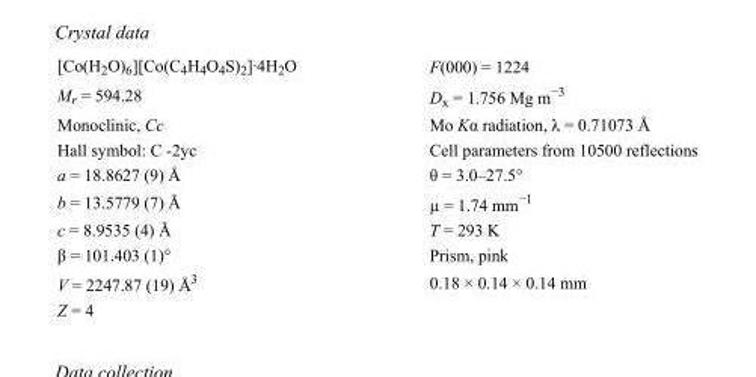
<table><tbody><tr><td>[Co(H<sub>2</sub>O)<sub>6</sub>][Co(C<sub>4</sub>H<sub>4</sub>O<sub>4</sub>S)<sub>2</sub>]·4H<sub>2</sub>O</td><td>F(000) = 1224</td></tr><tr><td>M<sub>r</sub> = 594.28</td><td>D<sub>x</sub> = 1.756 Mg m<sup>−3</sup></td></tr><tr><td>Monoclinic, Cc</td><td>Mo Kα radiation, λ = 0.71073 Å</td></tr><tr><td>Hall symbol: C -2yc</td><td>Cell parameters from 10500 reflections</td></tr><tr><td>a = 18.8627 (9) Å</td><td>θ = 3.0–27.5°</td></tr><tr><td>b = 13.5779 (7) Å</td><td>µ = 1.74 mm<sup>−1</sup></td></tr><tr><td>c = 8.9535 (4) Å</td><td>T = 293 K</td></tr><tr><td>β = 101.403 (1)°</td><td>Prism, pink</td></tr><tr><td>V = 2247.87 (19) Å<sup>3</sup></td><td>0.18 × 0.14 × 0.14 mm</td></tr><tr><td>Z = 4</td><td></td></tr></tbody></table>